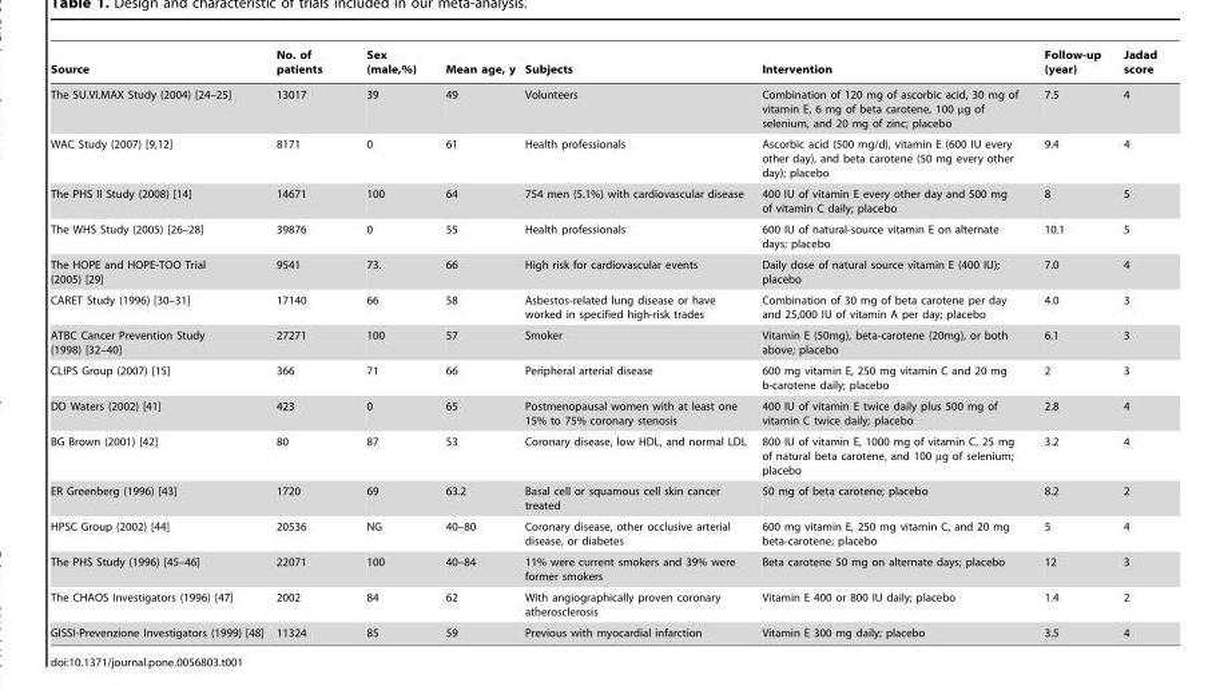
<table><thead><tr><td>Source</td><td>No. of patients</td><td>Sex (male,%)</td><td>Mean age, y</td><td>Subjects</td><td>Intervention</td><td>Follow-up (year)</td><td>Jadad score</td></tr></thead><tbody><tr><td>The SU.VI.MAX Study (2004) [24–25]</td><td>13017</td><td>39</td><td>49</td><td>Volunteers</td><td>Combination of 120 mg of ascorbic acid, 30 mg of vitamin E, 6 mg of beta carotene, 100 µg of selenium, and 20 mg of zinc; placebo</td><td>7.5</td><td>4</td></tr><tr><td>WAC Study (2007) [9,12]</td><td>8171</td><td>0</td><td>61</td><td>Health professionals</td><td>Ascorbic acid (500 mg/d), vitamin E (600 IU every other day), and beta carotene (50 mg every other day); placebo</td><td>9.4</td><td>4</td></tr><tr><td>The PHS II Study (2008) [14]</td><td>14671</td><td>100</td><td>64</td><td>754 men (5.1%) with cardiovascular disease</td><td>400 IU of vitamin E every other day and 500 mg of vitamin C daily; placebo</td><td>8</td><td>5</td></tr><tr><td>The WHS Study (2005) [26–28]</td><td>39876</td><td>0</td><td>55</td><td>Health professionals</td><td>600 IU of natural-source vitamin E on alternate days; placebo</td><td>10.1</td><td>5</td></tr><tr><td>The HOPE and HOPE-TOO Trial (2005) [29]</td><td>9541</td><td>73.</td><td>66</td><td>High risk for cardiovascular events</td><td>Daily dose of natural source vitamin E (400 IU); placebo</td><td>7.0</td><td>4</td></tr><tr><td>CARET Study (1996) [30–31]</td><td>17140</td><td>66</td><td>58</td><td>Asbestos-related lung disease or have worked in specified high-risk trades</td><td>Combination of 30 mg of beta carotene per day and 25,000 IU of vitamin A per day; placebo</td><td>4.0</td><td>3</td></tr><tr><td>ATBC Cancer Prevention Study (1998) [32–40]</td><td>27271</td><td>100</td><td>57</td><td>Smoker</td><td>Vitamin E (50mg), beta-carotene (20mg), or both above; placebo</td><td>6.1</td><td>3</td></tr><tr><td>CLIPS Group (2007) [15]</td><td>366</td><td>71</td><td>66</td><td>Peripheral arterial disease</td><td>600 mg vitamin E, 250 mg vitamin C and 20 mg b-carotene daily; placebo</td><td>2</td><td>3</td></tr><tr><td>DD Waters (2002) [41]</td><td>423</td><td>0</td><td>65</td><td>Postmenopausal women with at least one 15% to 75% coronary stenosis</td><td>400 IU of vitamin E twice daily plus 500 mg of vitamin C twice daily; placebo</td><td>2.8</td><td>4</td></tr><tr><td>BG Brown (2001) [42]</td><td>80</td><td>87</td><td>53</td><td>Coronary disease, low HDL, and normal LDL</td><td>800 IU of vitamin E, 1000 mg of vitamin C, 25 mg of natural beta carotene, and 100 µg of selenium; placebo</td><td>3.2</td><td>4</td></tr><tr><td>ER Greenberg (1996) [43]</td><td>1720</td><td>69</td><td>63.2</td><td>Basal cell or squamous cell skin cancer treated</td><td>50 mg of beta carotene; placebo</td><td>8.2</td><td>2</td></tr><tr><td>HPSC Group (2002) [44]</td><td>20536</td><td>NG</td><td>40–80</td><td>Coronary disease, other occlusive arterial disease, or diabetes</td><td>600 mg vitamin E, 250 mg vitamin C, and 20 mg beta-carotene; placebo</td><td>5</td><td>4</td></tr><tr><td>The PHS Study (1996) [45–46]</td><td>22071</td><td>100</td><td>40–84</td><td>11% were current smokers and 39% were former smokers</td><td>Beta carotene 50 mg on alternate days; placebo</td><td>12</td><td>3</td></tr><tr><td>The CHAOS Investigators (1996) [47]</td><td>2002</td><td>84</td><td>62</td><td>With angiographically proven coronary atherosclerosis</td><td>Vitamin E 400 or 800 IU daily; placebo</td><td>1.4</td><td>2</td></tr><tr><td>GISSI-Prevenzione Investigators (1999) [48]</td><td>11324</td><td>85</td><td>59</td><td>Previous with myocardial infarction</td><td>Vitamin E 300 mg daily; placebo</td><td>3.5</td><td>4</td></tr></tbody></table>